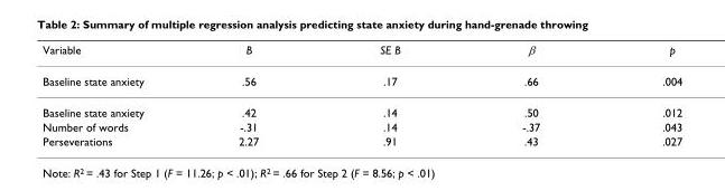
<table><thead><tr><td>Variable</td><td>B</td><td>SE B</td><td>β</td><td>p</td></tr></thead><tbody><tr><td>Baseline state anxiety</td><td>.56</td><td>.17</td><td>.66</td><td>.004</td></tr><tr><td>Baseline state anxiety</td><td>.42</td><td>.14</td><td>.50</td><td>.012</td></tr><tr><td>Number of words</td><td>-.31</td><td>.14</td><td>-.37</td><td>.043</td></tr><tr><td>Perseverations</td><td>2.27</td><td>.91</td><td>.43</td><td>.027</td></tr></tbody></table>